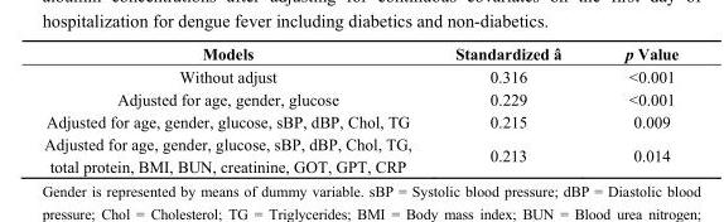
<table><thead><tr><td>Models</td><td>Standardized â</td><td>p Value</td></tr></thead><tbody><tr><td>Without adjust</td><td>0.316</td><td>&lt;0.001</td></tr><tr><td>Adjusted for age, gender, glucose</td><td>0.229</td><td>&lt;0.001</td></tr><tr><td>Adjusted for age, gender, glucose, sBP, dBP, Chol, TG</td><td>0.215</td><td>0.009</td></tr><tr><td>Adjusted for age, gender, glucose, sBP, dBP, Chol, TG, total protein, BMI, BUN, creatinine, GOT, GPT, CRP</td><td>0.213</td><td>0.014</td></tr></tbody></table>